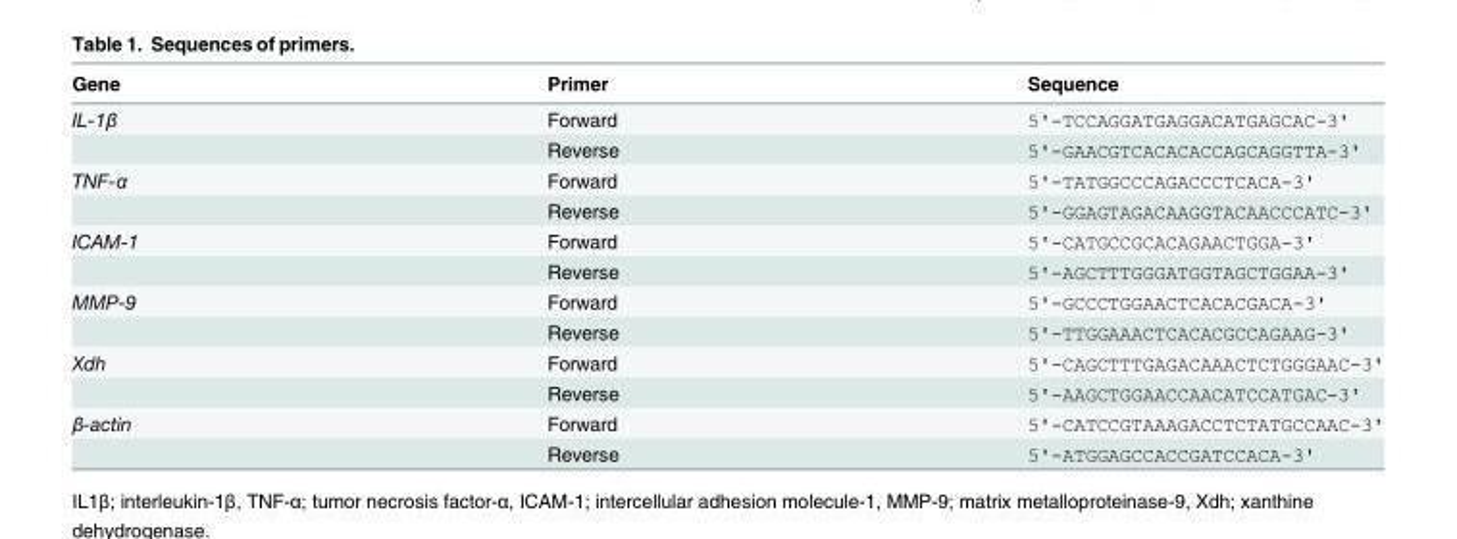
<table><thead><tr><td>Gene</td><td>Primer</td><td>Sequence</td></tr></thead><tbody><tr><td rowspan="2">IL-1β</td><td>Forward</td><td>5&#x27;-TCCAGGATGAGGACATGAGCAC-3&#x27;</td></tr><tr><td>Reverse</td><td>5&#x27;-GAACGTCACACACCAGCAGGTTA-3&#x27;</td></tr><tr><td rowspan="2">TNF-α</td><td>Forward</td><td>5&#x27;-TATGGCCCAGACCCTCACA-3&#x27;</td></tr><tr><td>Reverse</td><td>5&#x27;-GGAGTAGACAAGGTACAACCCATC-3&#x27;</td></tr><tr><td rowspan="2">ICAM-1</td><td>Forward</td><td>5&#x27;-CATGCCGCACAGAACTGGA-3&#x27;</td></tr><tr><td>Reverse</td><td>5&#x27;-AGCTTTGGGATGGTAGCTGGAA-3&#x27;</td></tr><tr><td rowspan="2">MMP-9</td><td>Forward</td><td>5&#x27;-GCCCTGGAACTCACACGACA-3&#x27;</td></tr><tr><td>Reverse</td><td>5&#x27;-TTGGAAACTCACACGCCAGAAG-3&#x27;</td></tr><tr><td rowspan="2">Xdh</td><td>Forward</td><td>5&#x27;-CAGCTTTGAGACAAACTCTGGGAAC-3&#x27;</td></tr><tr><td>Reverse</td><td>5&#x27;-AAGCTGGAACCAACATCCATGAC-3&#x27;</td></tr><tr><td rowspan="2">β-actin</td><td>Forward</td><td>5&#x27;-CATCCGTAAAGACCTCTATGCCAAC-3&#x27;</td></tr><tr><td>Reverse</td><td>5&#x27;-ATGGAGCCACCGATCCACA-3&#x27;</td></tr></tbody></table>